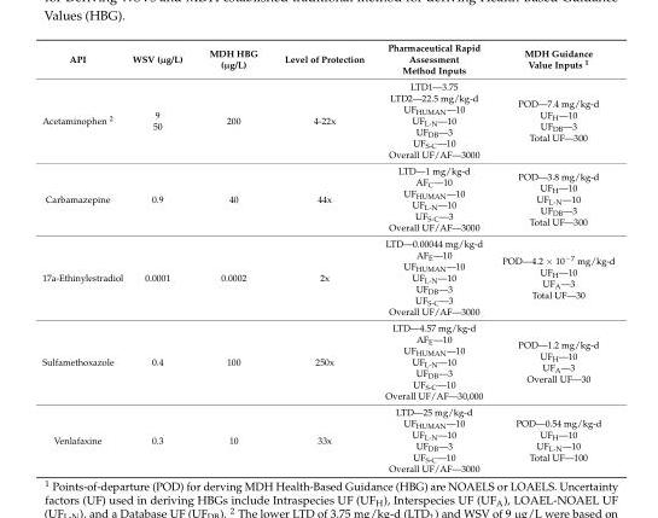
<table><thead><tr><td>API</td><td>WSV (µg/L)</td><td>MDH HBG (µg/L)</td><td>Level of Protection</td><td>Pharmaceutical Rapid Assessment Method Inputs</td><td>MDH Guidance Value Inputs <sup>1</sup></td></tr></thead><tbody><tr><td>Acetaminophen <sup>2</sup></td><td>9 50</td><td>200</td><td>4-22x</td><td>LTD1—3.75 LTD2—22.5 mg/kg-d UF<sub>HUMAN</sub>—10 UF<sub>L-N</sub>—10 UF<sub>DB</sub>—3 UF<sub>S-C</sub>—10 Overall UF/AF—3000</td><td>POD—7.4 mg/kg-d UF<sub>H</sub>—10 UF<sub>DB</sub>—3 Total UF—300</td></tr><tr><td>Carbamazepine</td><td>0.9</td><td>40</td><td>44x</td><td>LTD—1 mg/kg-d AF<sub>C</sub>—10 UF<sub>HUMAN</sub>—10 UF<sub>L-N</sub>—10 UF<sub>S-C</sub>—3 Overall UF/AF—3000</td><td>POD—3.8 mg/kg-d UF<sub>H</sub>—10 UF<sub>L-N</sub>—10 UF<sub>DB</sub>—3 Total UF—300</td></tr><tr><td>17a-Ethinylestradiol</td><td>0.0001</td><td>0.0002</td><td>2x</td><td>LTD—0.00044 mg/kg-d AF<sub>E</sub>—10 UF<sub>HUMAN</sub>—10 UF<sub>L-N</sub>—10 UF<sub>DB</sub>—3 UF<sub>S-C</sub>—3 Overall UF/AF—3000</td><td>POD—4.2 × 10<sup>−7</sup> mg/kg-d UF<sub>H</sub>—10 UF<sub>A</sub>—3 Total UF—30</td></tr><tr><td>Sulfamethoxazole</td><td>0.4</td><td>100</td><td>250x</td><td>LTD—4.57 mg/kg-d AF<sub>E</sub>—10 UF<sub>HUMAN</sub>—10 UF<sub>L-N</sub>—10 UF<sub>DB</sub>—3 UF<sub>S-C</sub>—10 Overall UF/AF—30,000</td><td>POD—1.2 mg/kg-d UF<sub>H</sub>—10 UF<sub>A</sub>—3 Overall UF—30</td></tr><tr><td>Venlafaxine</td><td>0.3</td><td>10</td><td>33x</td><td>LTD—25 mg/kg-d UF<sub>HUMAN</sub>—10 UF<sub>L-N</sub>—10 UF<sub>DB</sub>—3 UF<sub>S-C</sub>—10 Overall UF/AF—3000</td><td>POD—0.54 mg/kg-d UF<sub>H</sub>—10 UF<sub>L-N</sub>—10 Total UF—100</td></tr></tbody></table>